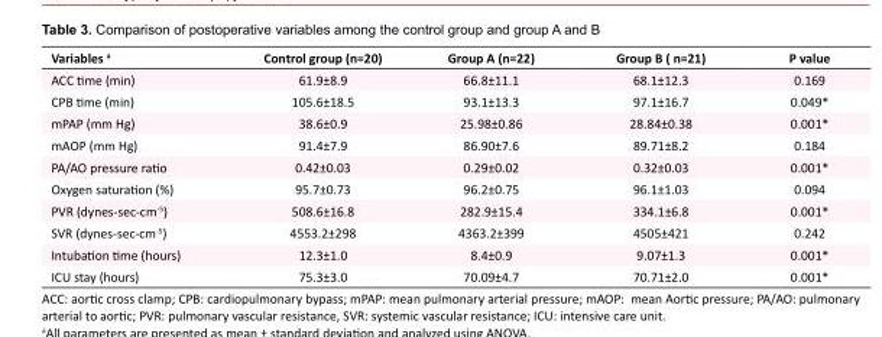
<table><tbody><tr><td>Variables <sup>a</sup></td><td>Control group (n=20)</td><td>Group A (n=22)</td><td>Group B ( n=21)</td><td>P value</td></tr><tr><td>ACC time (min)</td><td>61.9±8.9</td><td>66.8±11.1</td><td>68.1±12.3</td><td>0.169</td></tr><tr><td>CPB time (min)</td><td>105.6±18.5</td><td>93.1±13.3</td><td>97.1±16.7</td><td>0.049*</td></tr><tr><td>mPAP (mm Hg)</td><td>38.6±0.9</td><td>25.98±0.86</td><td>28.84±0.38</td><td>0.001*</td></tr><tr><td>mAOP (mm Hg)</td><td>91.4±7.9</td><td>86.90±7.6</td><td>89.71±8.2</td><td>0.184</td></tr><tr><td>PA/AO pressure ratio</td><td>0.42±0.03</td><td>0.29±0.02</td><td>0.32±0.03</td><td>0.001*</td></tr><tr><td>Oxygen saturation (%)</td><td>95.7±0.73</td><td>96.2±0.75</td><td>96.1±1.03</td><td>0.094</td></tr><tr><td>PVR (dynes-sec-cm<sup>-5</sup>)</td><td>508.6±16.8</td><td>282.9±15.4</td><td>334.1±6.8</td><td>0.001*</td></tr><tr><td>SVR (dynes-sec-cm<sup>-5</sup>)</td><td>4553.2±298</td><td>4363.2±399</td><td>4505±421</td><td>0.242</td></tr><tr><td>Intubation time (hours)</td><td>12.3±1.0</td><td>8.4±0.9</td><td>9.07±1.3</td><td>0.001*</td></tr><tr><td>ICU stay (hours)</td><td>75.3±3.0</td><td>70.09±4.7</td><td>70.71±2.0</td><td>0.001*</td></tr></tbody></table>